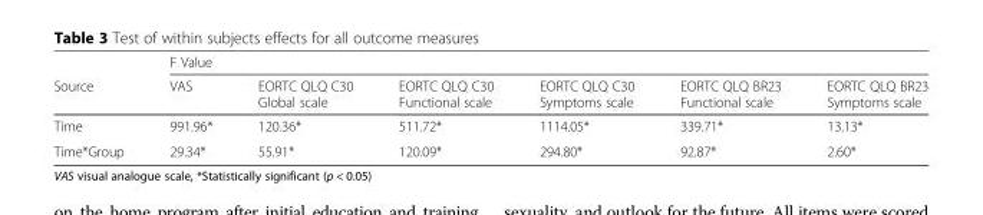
<table><thead><tr><td rowspan="2">Source</td><td colspan="6">F Value</td></tr><tr><td>VAS</td><td>EORTC QLQ C30 Global scale</td><td>EORTC QLQ C30 Functional scale</td><td>EORTC QLQ C30 Symptoms scale</td><td>EORTC QLQ BR23 Functional scale</td><td>EORTC QLQ BR23 Symptoms scale</td></tr></thead><tbody><tr><td>Time</td><td>991.96*</td><td>120.36*</td><td>511.72*</td><td>1114.05*</td><td>339.71*</td><td>13.13*</td></tr><tr><td>Time*Group</td><td>29.34*</td><td>55.91*</td><td>120.09*</td><td>294.80*</td><td>92.87*</td><td>2.60*</td></tr></tbody></table>